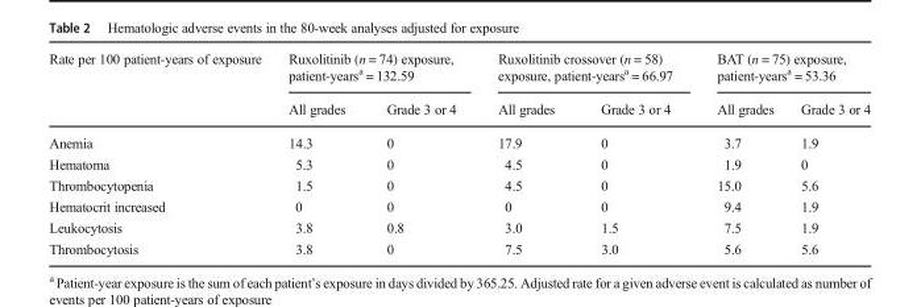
<table><thead><tr><td rowspan="2">Rate per 100 patient-years of exposure</td><td colspan="2">Ruxolitinib (n = 74) exposure, patient-years<sup>a</sup> = 132.59</td><td colspan="2">Ruxolitinib crossover (n = 58) exposure, patient-years<sup>a</sup> = 66.97</td><td colspan="2">BAT (n = 75) exposure, patient-years<sup>a</sup> = 53.36</td></tr><tr><td>All grades</td><td>Grade 3 or 4</td><td>All grades</td><td>Grade 3 or 4</td><td>All grades</td><td>Grade 3 or 4</td></tr></thead><tbody><tr><td>Anemia</td><td>14.3</td><td>0</td><td>17.9</td><td>0</td><td>3.7</td><td>1.9</td></tr><tr><td>Hematoma</td><td>5.3</td><td>0</td><td>4.5</td><td>0</td><td>1.9</td><td>0</td></tr><tr><td>Thrombocytopenia</td><td>1.5</td><td>0</td><td>4.5</td><td>0</td><td>15.0</td><td>5.6</td></tr><tr><td>Hematocrit increased</td><td>0</td><td>0</td><td>0</td><td>0</td><td>9.4</td><td>1.9</td></tr><tr><td>Leukocytosis</td><td>3.8</td><td>0.8</td><td>3.0</td><td>1.5</td><td>7.5</td><td>1.9</td></tr><tr><td>Thrombocytosis</td><td>3.8</td><td>0</td><td>7.5</td><td>3.0</td><td>5.6</td><td>5.6</td></tr></tbody></table>